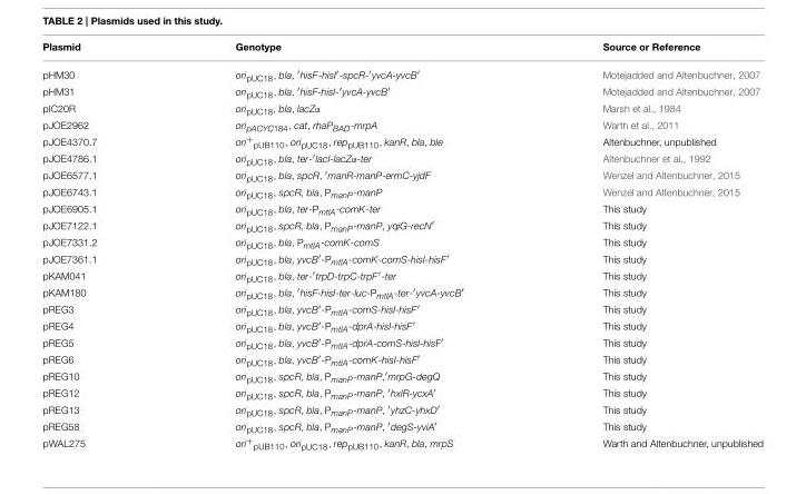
<table><thead><tr><td>Plasmid</td><td>Genotype</td><td>Source or Reference</td></tr></thead><tbody><tr><td>pHM30</td><td>ori<sub>pUC18</sub>, bla, ′hisF-hisI′-spcR-′yvcA-yvcB′</td><td>Motejadded and Altenbuchner, 2007</td></tr><tr><td>pHM31</td><td>ori<sub>pUC18</sub>, bla, ′hisF-hisI-′yvcA-yvcB′</td><td>Motejadded and Altenbuchner, 2007</td></tr><tr><td>pIC20R</td><td>ori<sub>pUC18</sub>, bla, lacZα</td><td>Marsh et al., 1984</td></tr><tr><td>pJOE2962</td><td>oripACYC184, cat, rhaPBAD-mrpA</td><td>Warth et al., 2011</td></tr><tr><td>pJOE4370.7</td><td>ori<sup>+</sup><sub>pUB110</sub>, ori<sub>pUC18</sub>, rep<sub>pUB110</sub>, kanR, bla, ble</td><td>Altenbuchner, unpublished</td></tr><tr><td>pJOE4786.1</td><td>ori<sub>pUC18</sub>, bla, ter-′lacI-lacZα-ter</td><td>Altenbuchner et al., 1992</td></tr><tr><td>pJOE6577.1</td><td>ori<sub>pUC18</sub>, bla, spcR, ′manR-manP-ermC-yjdF</td><td>Wenzel and Altenbuchner, 2015</td></tr><tr><td>pJOE6743.1</td><td>oripUC18, spcR, bla, PmanP-manP</td><td>Wenzel and Altenbuchner, 2015</td></tr><tr><td>pJOE6905.1</td><td>ori<sub>pUC18</sub>, bla, ter-P<sub>mtlA</sub>-comK-ter</td><td>This study</td></tr><tr><td>pJOE7122.1</td><td>oripUC18, spcR, bla, PmanP-manP, yqiG-recN′</td><td>This study</td></tr><tr><td>pJOE7331.2</td><td>ori<sub>pUC18</sub>, bla, P<sub>mtlA</sub>-comK-comS</td><td>This study</td></tr><tr><td>pJOE7361.1</td><td>ori<sub>pUC18</sub>, bla, yvcB′-P<sub>mtlA</sub>-comK-comS-hisI-hisF′</td><td>This study</td></tr><tr><td>pKAM041</td><td>ori<sub>pUC18</sub>, bla, ter-′trpD-trpC-trpF′-ter</td><td>This study</td></tr><tr><td>pKAM180</td><td>ori<sub>pUC18</sub>, bla, ′hisF-hisI-ter-luc-P<sub>mtlA</sub>-ter-′yvcA-yvcB′</td><td>This study</td></tr><tr><td>pREG3</td><td>ori<sub>pUC18</sub>, bla, yvcB′-P<sub>mtlA</sub>-comS-hisI-hisF′</td><td>This study</td></tr><tr><td>pREG4</td><td>ori<sub>pUC18</sub>, bla, yvcB′-P<sub>mtlA</sub>-dprA-hisI-hisF′</td><td>This study</td></tr><tr><td>pREG5</td><td>ori<sub>pUC18</sub>, bla, yvcB′-P<sub>mtlA</sub>-dprA-comS-hisI-hisF′</td><td>This study</td></tr><tr><td>pREG6</td><td>ori<sub>pUC18</sub>, bla, yvcB′-P<sub>mtlA</sub>-comK-hisI-hisF′</td><td>This study</td></tr><tr><td>pREG10</td><td>oripUC18, spcR, bla, PmanP-manP,′mrpG-degQ</td><td>This study</td></tr><tr><td>pREG12</td><td>oripUC18, spcR, bla, PmanP-manP, ′hxlR-ycxA′</td><td>This study</td></tr><tr><td>pREG13</td><td>oripUC18, spcR, bla, PmanP-manP, ′yhzC-yhxD′</td><td>This study</td></tr><tr><td>pREG58</td><td>oripUC18, spcR, bla, PmanP-manP, ′degS-yviA′</td><td>This study</td></tr><tr><td>pWAL275</td><td>ori<sup>+</sup><sub>pUB110</sub>, ori<sub>pUC18</sub>, rep<sub>pUB110</sub>, kanR, bla, mrpS</td><td>Warth and Altenbuchner, unpublished</td></tr></tbody></table>